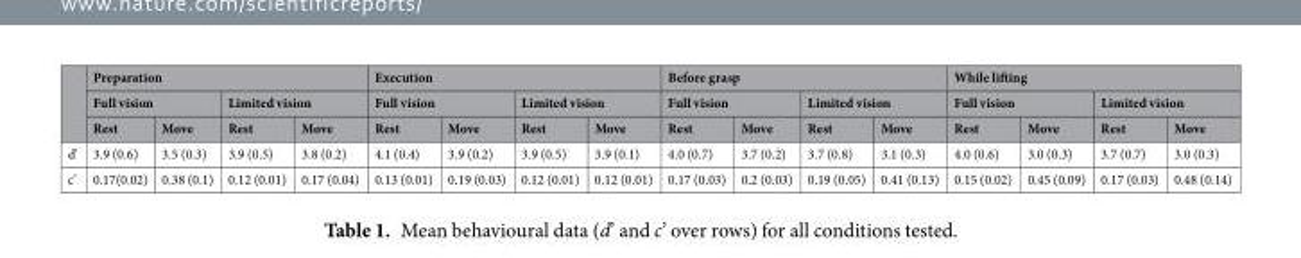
<table><thead><tr><td rowspan="3"></td><td colspan="4">Preparation</td><td colspan="4">Execution</td><td colspan="4">Before grasp</td><td colspan="4">While lifting</td></tr><tr><td colspan="2">Full vision</td><td colspan="2">Limited vision</td><td colspan="2">Full vision</td><td colspan="2">Limited vision</td><td colspan="2">Full vision</td><td colspan="2">Limited vision</td><td colspan="2">Full vision</td><td colspan="2">Limited vision</td></tr><tr><td>Rest</td><td>Move</td><td>Rest</td><td>Move</td><td>Rest</td><td>Move</td><td>Rest</td><td>Move</td><td>Rest</td><td>Move</td><td>Rest</td><td>Move</td><td>Rest</td><td>Move</td><td>Rest</td><td>Move</td></tr></thead><tbody><tr><td>d’</td><td>3.9 (0.6)</td><td>3.5 (0.3)</td><td>3.9 (0.5)</td><td>3.8 (0.2)</td><td>4.1 (0.4)</td><td>3.9 (0.2)</td><td>3.9 (0.5)</td><td>3.9 (0.1)</td><td>4.0 (0.7)</td><td>3.7 (0.2)</td><td>3.7 (0.8)</td><td>3.1 (0.3)</td><td>4.0 (0.6)</td><td>3.0 (0.3)</td><td>3.7 (0.7)</td><td>3.0 (0.3)</td></tr><tr><td>c’</td><td>0.17(0.02)</td><td>0.38 (0.1)</td><td>0.12 (0.01)</td><td>0.17 (0.04)</td><td>0.13 (0.01)</td><td>0.19 (0.03)</td><td>0.12 (0.01)</td><td>0.12 (0.01)</td><td>0.17 (0.03)</td><td>0.2 (0.03)</td><td>0.19 (0.05)</td><td>0.41 (0.13)</td><td>0.15 (0.02)</td><td>0.45 (0.09)</td><td>0.17 (0.03)</td><td>0.48 (0.14)</td></tr></tbody></table>